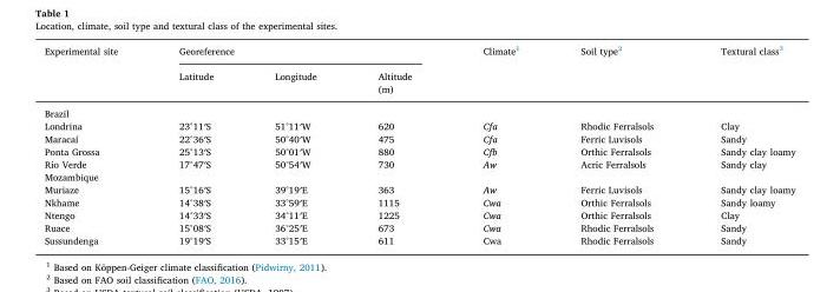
<table><thead><tr><td rowspan="2">Experimental site</td><td colspan="3">Georeference</td><td rowspan="2">Climate<sup>1</sup></td><td rowspan="2">Soil type<sup>2</sup></td><td rowspan="2">Textural class<sup>3</sup></td></tr><tr><td>Latitude</td><td>Longitude</td><td>Altitude (m)</td></tr></thead><tbody><tr><td colspan="7">Brazil</td></tr><tr><td>Londrina</td><td>23°11′S</td><td>51°11′W</td><td>620</td><td>Cfa</td><td>Rhodic Ferralsols</td><td>Clay</td></tr><tr><td>Maracaí</td><td>22°36′S</td><td>50°40′W</td><td>475</td><td>Cfa</td><td>Ferric Luvisols</td><td>Sandy</td></tr><tr><td>Ponta Grossa</td><td>25°13′S</td><td>50°01′W</td><td>880</td><td>Cfb</td><td>Orthic Ferralsols</td><td>Sandy clay loamy</td></tr><tr><td>Rio Verde</td><td>17°47′S</td><td>50°54′W</td><td>730</td><td>Aw</td><td>Acric Ferralsols</td><td>Sandy clay</td></tr><tr><td colspan="7">Mozambique</td></tr><tr><td>Muriaze</td><td>15°16′S</td><td>39°19′E</td><td>363</td><td>Aw</td><td>Ferric Luvisols</td><td>Sandy clay loamy</td></tr><tr><td>Nkhame</td><td>14°38′S</td><td>33°59′E</td><td>1115</td><td>Cwa</td><td>Orthic Ferralsols</td><td>Sandy loamy</td></tr><tr><td>Ntengo</td><td>14°33′S</td><td>34°11′E</td><td>1225</td><td>Cwa</td><td>Orthic Ferralsols</td><td>Clay</td></tr><tr><td>Ruace</td><td>15°08′S</td><td>36°25′E</td><td>673</td><td>Cwa</td><td>Rhodic Ferralsols</td><td>Sandy</td></tr><tr><td>Sussundenga</td><td>19°19′S</td><td>33°15′E</td><td>611</td><td>Cwa</td><td>Rhodic Ferralsols</td><td>Sandy</td></tr></tbody></table>